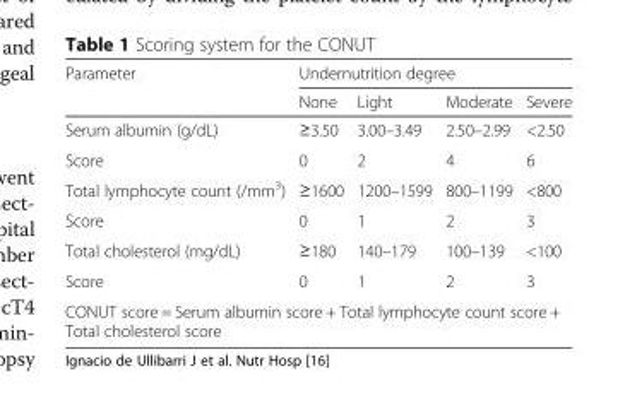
<table><thead><tr><td rowspan="2">Parameter</td><td colspan="4">Undernutrition degree</td></tr><tr><td>None</td><td>Light</td><td>Moderate</td><td>Severe</td></tr></thead><tbody><tr><td>Serum albumin (g/dL)</td><td>≥3.50</td><td>3.00–3.49</td><td>2.50–2.99</td><td>&lt;2.50</td></tr><tr><td>Score</td><td>0</td><td>2</td><td>4</td><td>6</td></tr><tr><td>Total lymphocyte count (/mm<sup>3</sup>)</td><td>≥1600</td><td>1200–1599</td><td>800–1199</td><td>&lt;800</td></tr><tr><td>Score</td><td>0</td><td>1</td><td>2</td><td>3</td></tr><tr><td>Total cholesterol (mg/dL)</td><td>≥180</td><td>140–179</td><td>100–139</td><td>&lt;100</td></tr><tr><td>Score</td><td>0</td><td>1</td><td>2</td><td>3</td></tr><tr><td colspan="5">CONUT score = Serum albumin score + Total lymphocyte count score + Total cholesterol score</td></tr></tbody></table>